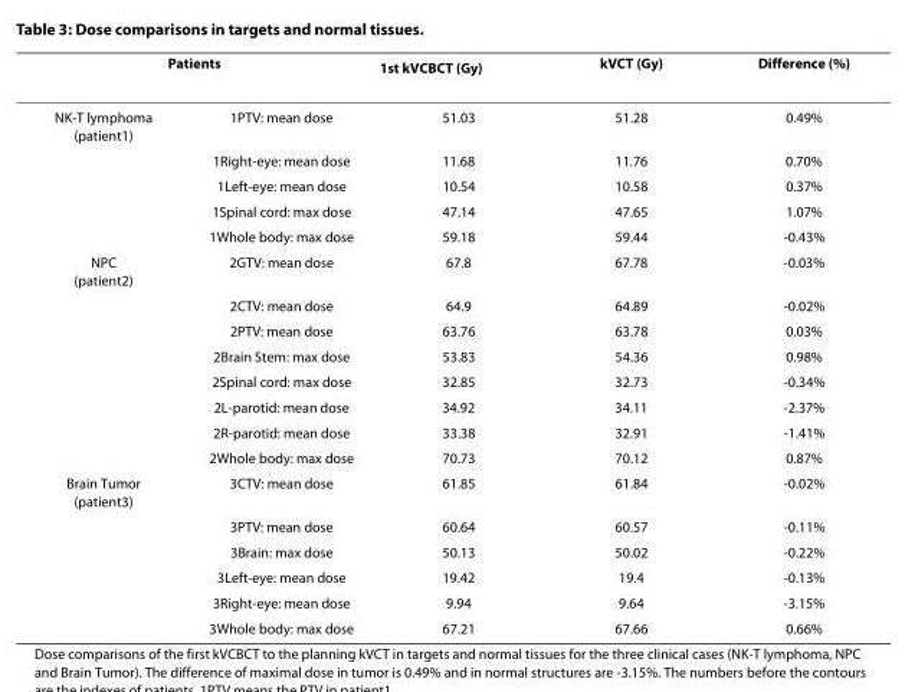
<table><thead><tr><td colspan="2">Patients</td><td rowspan="2">1<sup>st</sup> kVCBCT (Gy) 51.03</td><td rowspan="2">kVCT (Gy) 51.28</td><td rowspan="2">Difference (%) 0.49%</td></tr><tr><td>NK-T lymphoma (patient1)</td><td>1PTV: mean dose</td></tr></thead><tbody><tr><td></td><td>1Right-eye: mean dose</td><td>11.68</td><td>11.76</td><td>0.70%</td></tr><tr><td></td><td>1Left-eye: mean dose</td><td>10.54</td><td>10.58</td><td>0.37%</td></tr><tr><td></td><td>1Spinal cord: max dose</td><td>47.14</td><td>47.65</td><td>1.07%</td></tr><tr><td></td><td>1Whole body: max dose</td><td>59.18</td><td>59.44</td><td>-0.43%</td></tr><tr><td rowspan="8">NPC (patient2)</td><td>2GTV: mean dose</td><td>67.8</td><td>67.78</td><td>-0.03%</td></tr><tr><td>2CTV: mean dose</td><td>64.9</td><td>64.89</td><td>-0.02%</td></tr><tr><td>2PTV: mean dose</td><td>63.76</td><td>63.78</td><td>0.03%</td></tr><tr><td>2Brain Stem: max dose</td><td>53.83</td><td>54.36</td><td>0.98%</td></tr><tr><td>2Spinal cord: max dose</td><td>32.85</td><td>32.73</td><td>-0.34%</td></tr><tr><td>2L-parotid: mean dose</td><td>34.92</td><td>34.11</td><td>-2.37%</td></tr><tr><td>2R-parotid: mean dose</td><td>33.38</td><td>32.91</td><td>-1.41%</td></tr><tr><td>2Whole body: max dose</td><td>70.73</td><td>70.12</td><td>0.87%</td></tr><tr><td rowspan="6">Brain Tumor (patient3)</td><td>3CTV: mean dose</td><td>61.85</td><td>61.84</td><td>-0.02%</td></tr><tr><td>3PTV: mean dose</td><td>60.64</td><td>60.57</td><td>-0.11%</td></tr><tr><td>3Brain: max dose</td><td>50.13</td><td>50.02</td><td>-0.22%</td></tr><tr><td>3Left-eye: mean dose</td><td>19.42</td><td>19.4</td><td>-0.13%</td></tr><tr><td>3Right-eye: mean dose</td><td>9.94</td><td>9.64</td><td>-3.15%</td></tr><tr><td>3Whole body: max dose</td><td>67.21</td><td>67.66</td><td>0.66%</td></tr></tbody></table>